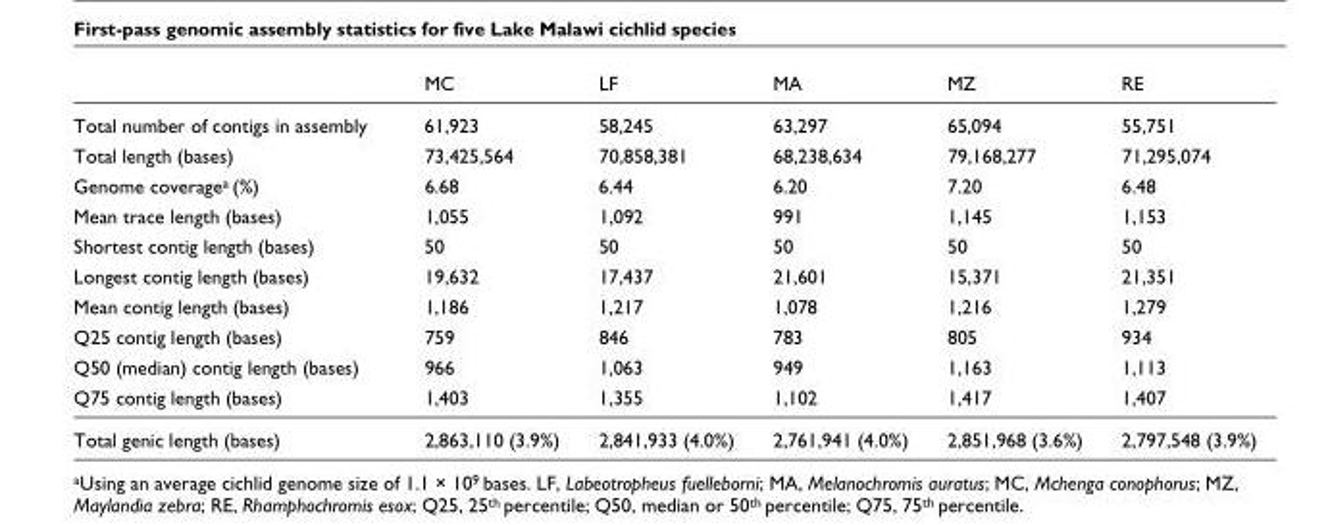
<table><thead><tr><td></td><td>MC</td><td>LF</td><td>MA</td><td>MZ</td><td>RE</td></tr></thead><tbody><tr><td>Total number of contigs in assembly</td><td>61,923</td><td>58,245</td><td>63,297</td><td>65,094</td><td>55,751</td></tr><tr><td>Total length (bases)</td><td>73,425,564</td><td>70,858,381</td><td>68,238,634</td><td>79,168,277</td><td>71,295,074</td></tr><tr><td>Genome coverage<sup>a</sup> (%)</td><td>6.68</td><td>6.44</td><td>6.20</td><td>7.20</td><td>6.48</td></tr><tr><td>Mean trace length (bases)</td><td>1,055</td><td>1,092</td><td>991</td><td>1,145</td><td>1,153</td></tr><tr><td>Shortest contig length (bases)</td><td>50</td><td>50</td><td>50</td><td>50</td><td>50</td></tr><tr><td>Longest contig length (bases)</td><td>19,632</td><td>17,437</td><td>21,601</td><td>15,371</td><td>21,351</td></tr><tr><td>Mean contig length (bases)</td><td>1,186</td><td>1,217</td><td>1,078</td><td>1,216</td><td>1,279</td></tr><tr><td>Q25 contig length (bases)</td><td>759</td><td>846</td><td>783</td><td>805</td><td>934</td></tr><tr><td>Q50 (median) contig length (bases)</td><td>966</td><td>1,063</td><td>949</td><td>1,163</td><td>1,113</td></tr><tr><td>Q75 contig length (bases)</td><td>1,403</td><td>1,355</td><td>1,102</td><td>1,417</td><td>1,407</td></tr><tr><td>Total genic length (bases)</td><td>2,863,110 (3.9%)</td><td>2,841,933 (4.0%)</td><td>2,761,941 (4.0%)</td><td>2,851,968 (3.6%)</td><td>2,797,548 (3.9%)</td></tr></tbody></table>